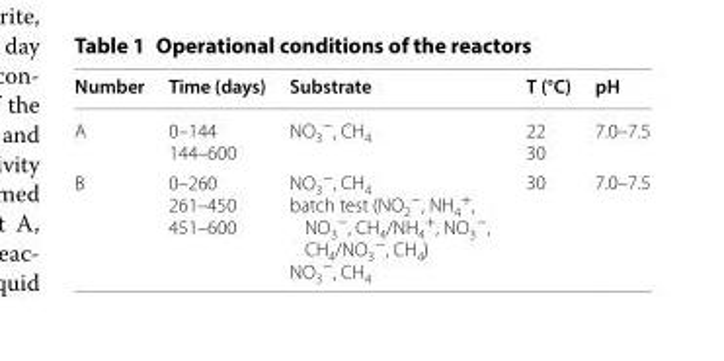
<table><thead><tr><td>Number</td><td>Time (days)</td><td>Substrate</td><td>T (°C)</td><td>pH</td></tr></thead><tbody><tr><td>A</td><td>0–144 144–600</td><td>NO<sub>3</sub> <sup>−</sup>, CH<sub>4</sub></td><td>22 30</td><td>7.0–7.5</td></tr><tr><td>B</td><td>0–260 261–450 451–600</td><td>NO<sub>3</sub> <sup>−</sup>, CH<sub>4</sub> batch test (NO<sub>2</sub> <sup>−</sup>, NH<sub>4</sub> <sup>+</sup>, NO<sub>3</sub> <sup>−</sup>, CH<sub>4</sub>/NH<sub>4</sub> <sup>+</sup>, NO<sub>3</sub> <sup>−</sup>, CH<sub>4</sub>/NO<sub>3</sub> <sup>−</sup>, CH<sub>4</sub>) NO<sub>3</sub> <sup>−</sup>, CH<sub>4</sub></td><td>30</td><td>7.0–7.5</td></tr></tbody></table>